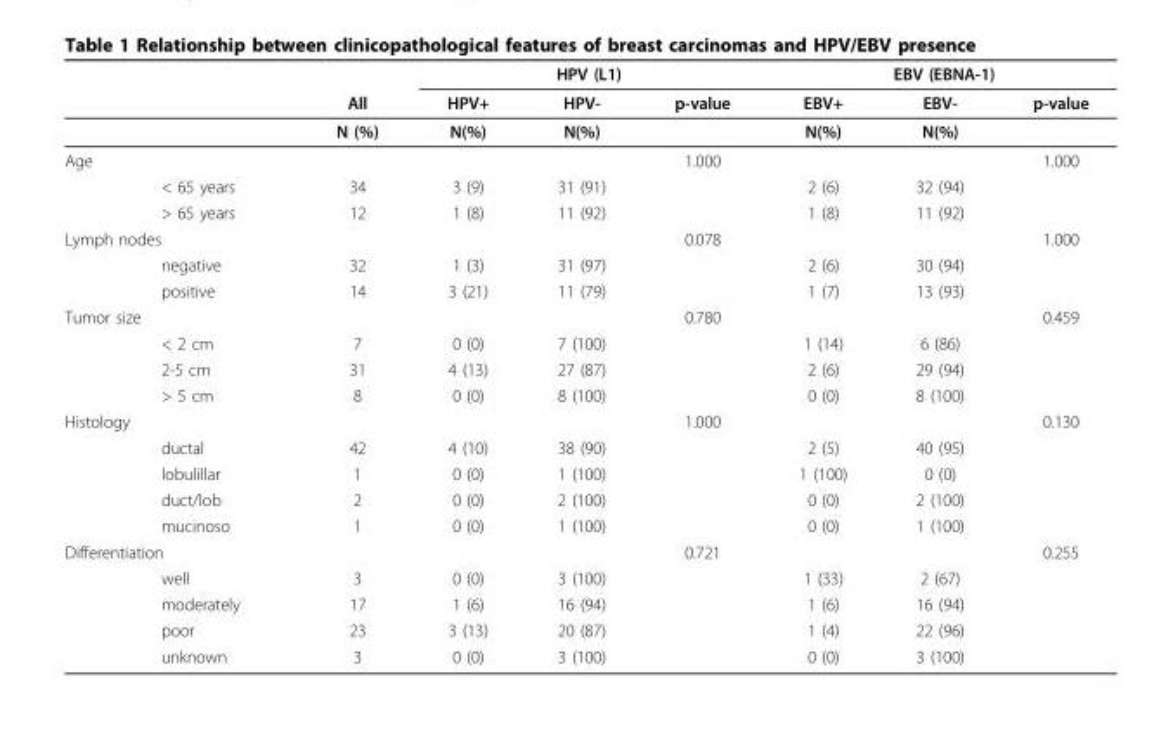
<table><thead><tr><td rowspan="2"></td><td rowspan="2"></td><td rowspan="2">All</td><td colspan="3">HPV (L1)</td><td colspan="3">EBV (EBNA-1)</td></tr><tr><td>HPV+</td><td>HPV-</td><td>p-value</td><td>EBV+</td><td>EBV-</td><td>p-value</td></tr></thead><tbody><tr><td></td><td></td><td>N (%)</td><td>N(%)</td><td>N(%)</td><td></td><td>N(%)</td><td>N(%)</td><td></td></tr><tr><td rowspan="3">Age</td><td></td><td></td><td></td><td></td><td>1.000</td><td></td><td></td><td>1.000</td></tr><tr><td>&lt; 65 years</td><td>34</td><td>3 (9)</td><td>31 (91)</td><td></td><td>2 (6)</td><td>32 (94)</td><td></td></tr><tr><td>&gt; 65 years</td><td>12</td><td>1 (8)</td><td>11 (92)</td><td></td><td>1 (8)</td><td>11 (92)</td><td></td></tr><tr><td colspan="2">Lymph nodes</td><td></td><td></td><td></td><td>0.078</td><td></td><td></td><td>1.000</td></tr><tr><td></td><td>negative</td><td>32</td><td>1 (3)</td><td>31 (97)</td><td></td><td>2 (6)</td><td>30 (94)</td><td></td></tr><tr><td></td><td>positive</td><td>14</td><td>3 (21)</td><td>11 (79)</td><td></td><td>1 (7)</td><td>13 (93)</td><td></td></tr><tr><td colspan="2">Tumor size</td><td></td><td></td><td></td><td>0.780</td><td></td><td></td><td>0.459</td></tr><tr><td></td><td>&lt; 2 cm</td><td>7</td><td>0 (0)</td><td>7 (100)</td><td></td><td>1 (14)</td><td>6 (86)</td><td></td></tr><tr><td></td><td>2-5 cm</td><td>31</td><td>4 (13)</td><td>27 (87)</td><td></td><td>2 (6)</td><td>29 (94)</td><td></td></tr><tr><td></td><td>&gt; 5 cm</td><td>8</td><td>0 (0)</td><td>8 (100)</td><td></td><td>0 (0)</td><td>8 (100)</td><td></td></tr><tr><td colspan="2">Histology</td><td></td><td></td><td></td><td>1.000</td><td></td><td></td><td>0.130</td></tr><tr><td></td><td>ductal</td><td>42</td><td>4 (10)</td><td>38 (90)</td><td></td><td>2 (5)</td><td>40 (95)</td><td></td></tr><tr><td></td><td>lobulillar</td><td>1</td><td>0 (0)</td><td>1 (100)</td><td></td><td>1 (100)</td><td>0 (0)</td><td></td></tr><tr><td></td><td>duct/lob</td><td>2</td><td>0 (0)</td><td>2 (100)</td><td></td><td>0 (0)</td><td>2 (100)</td><td></td></tr><tr><td></td><td>mucinoso</td><td>1</td><td>0 (0)</td><td>1 (100)</td><td></td><td>0 (0)</td><td>1 (100)</td><td></td></tr><tr><td colspan="2">Differentiation</td><td></td><td></td><td></td><td>0.721</td><td></td><td></td><td>0.255</td></tr><tr><td></td><td>well</td><td>3</td><td>0 (0)</td><td>3 (100)</td><td></td><td>1 (33)</td><td>2 (67)</td><td></td></tr><tr><td></td><td>moderately</td><td>17</td><td>1 (6)</td><td>16 (94)</td><td></td><td>1 (6)</td><td>16 (94)</td><td></td></tr><tr><td></td><td>poor</td><td>23</td><td>3 (13)</td><td>20 (87)</td><td></td><td>1 (4)</td><td>22 (96)</td><td></td></tr><tr><td></td><td>unknown</td><td>3</td><td>0 (0)</td><td>3 (100)</td><td></td><td>0 (0)</td><td>3 (100)</td><td></td></tr></tbody></table>